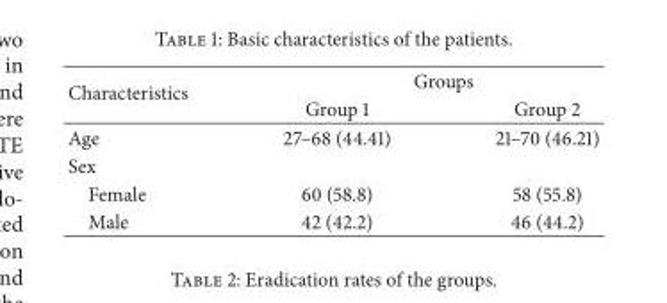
<table><thead><tr><td rowspan="2">Characteristics</td><td colspan="2">Groups</td></tr><tr><td>Group 1</td><td>Group 2</td></tr></thead><tbody><tr><td>Age</td><td>27–68 (44.41)</td><td>21–70 (46.21)</td></tr><tr><td colspan="3">Sex</td></tr><tr><td>Female</td><td>60 (58.8)</td><td>58 (55.8)</td></tr><tr><td>Male</td><td>42 (42.2)</td><td>46 (44.2)</td></tr></tbody></table>